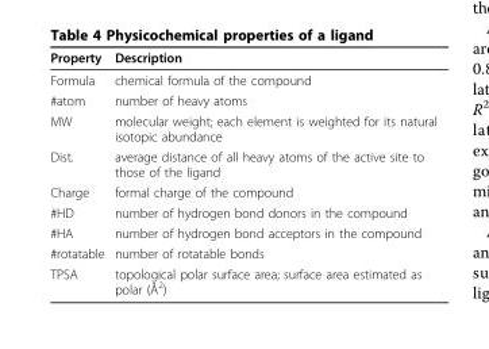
<table><thead><tr><td>Property</td><td>Description</td></tr></thead><tbody><tr><td>Formula</td><td>chemical formula of the compound</td></tr><tr><td>#atom</td><td>number of heavy atoms</td></tr><tr><td>MW</td><td>molecular weight; each element is weighted for its natural isotopic abundance</td></tr><tr><td>Dist.</td><td>average distance of all heavy atoms of the active site to those of the ligand</td></tr><tr><td>Charge</td><td>formal charge of the compound</td></tr><tr><td>#HD</td><td>number of hydrogen bond donors in the compound</td></tr><tr><td>#HA</td><td>number of hydrogen bond acceptors in the compound</td></tr><tr><td>#rotatable</td><td>number of rotatable bonds</td></tr><tr><td>TPSA</td><td>topological polar surface area; surface area estimated as polar (Å<sup>2</sup>)</td></tr></tbody></table>